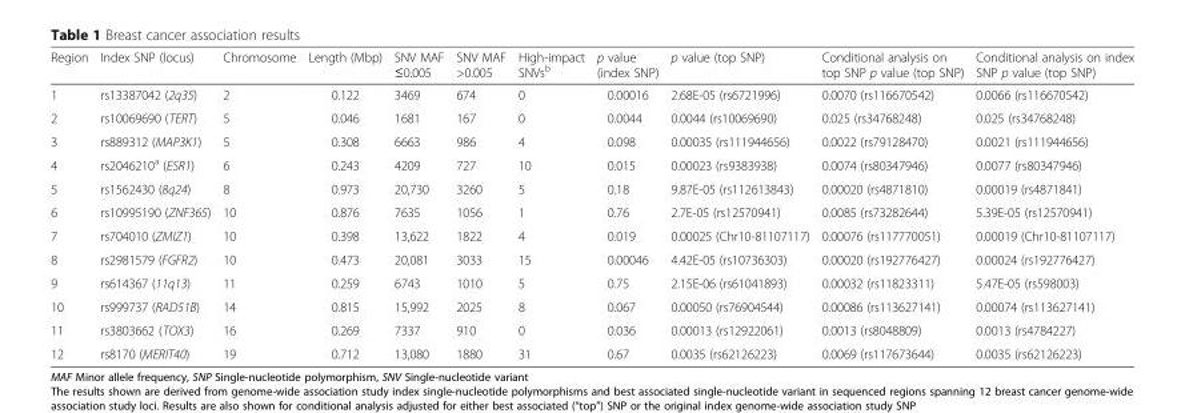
<table><thead><tr><td>Region</td><td>Index SNP (locus)</td><td>Chromosome</td><td>Length (Mbp)</td><td>SNV MAF ≤0.005</td><td>SNV MAF &gt;0.005</td><td>High-impact SNVs<sup>b</sup></td><td>p value (index SNP)</td><td>p value (top SNP)</td><td>Conditional analysis on top SNP p value (top SNP)</td><td>Conditional analysis on index SNP p value (top SNP)</td></tr></thead><tbody><tr><td>1</td><td>rs13387042 (2q35)</td><td>2</td><td>0.122</td><td>3469</td><td>674</td><td>0</td><td>0.00016</td><td>2.68E-05 (rs6721996)</td><td>0.0070 (rs116670542)</td><td>0.0066 (rs116670542)</td></tr><tr><td>2</td><td>rs10069690 (TERT)</td><td>5</td><td>0.046</td><td>1681</td><td>167</td><td>0</td><td>0.0044</td><td>0.0044 (rs10069690)</td><td>0.025 (rs34768248)</td><td>0.025 (rs34768248)</td></tr><tr><td>3</td><td>rs889312 (MAP3K1)</td><td>5</td><td>0.308</td><td>6663</td><td>986</td><td>4</td><td>0.098</td><td>0.00035 (rs111944656)</td><td>0.0022 (rs79128470)</td><td>0.0021 (rs111944656)</td></tr><tr><td>4</td><td>rs2046210<sup>a</sup> (ESR1)</td><td>6</td><td>0.243</td><td>4209</td><td>727</td><td>10</td><td>0.015</td><td>0.00023 (rs9383938)</td><td>0.0074 (rs80347946)</td><td>0.0077 (rs80347946)</td></tr><tr><td>5</td><td>rs1562430 (8q24)</td><td>8</td><td>0.973</td><td>20,730</td><td>3260</td><td>5</td><td>0.18</td><td>9.87E-05 (rs112613843)</td><td>0.00020 (rs4871810)</td><td>0.00019 (rs4871841)</td></tr><tr><td>6</td><td>rs10995190 (ZNF365)</td><td>10</td><td>0.876</td><td>7635</td><td>1056</td><td>1</td><td>0.76</td><td>2.7E-05 (rs12570941)</td><td>0.0085 (rs73282644)</td><td>5.39E-05 (rs12570941)</td></tr><tr><td>7</td><td>rs704010 (ZMIZ1)</td><td>10</td><td>0.398</td><td>13,622</td><td>1822</td><td>4</td><td>0.019</td><td>0.00025 (Chr10-81107117)</td><td>0.00076 (rs117770051)</td><td>0.00019 (Chr10-81107117)</td></tr><tr><td>8</td><td>rs2981579 (FGFR2)</td><td>10</td><td>0.473</td><td>20,081</td><td>3033</td><td>15</td><td>0.00046</td><td>4.42E-05 (rs10736303)</td><td>0.00020 (rs192776427)</td><td>0.00024 (rs192776427)</td></tr><tr><td>9</td><td>rs614367 (11q13)</td><td>11</td><td>0.259</td><td>6743</td><td>1010</td><td>5</td><td>0.75</td><td>2.15E-06 (rs61041893)</td><td>0.00032 (rs11823311)</td><td>5.47E-05 (rs598003)</td></tr><tr><td>10</td><td>rs999737 (RAD51B)</td><td>14</td><td>0.815</td><td>15,992</td><td>2025</td><td>8</td><td>0.067</td><td>0.00050 (rs76904544)</td><td>0.00086 (rs113627141)</td><td>0.00074 (rs113627141)</td></tr><tr><td>11</td><td>rs3803662 (TOX3)</td><td>16</td><td>0.269</td><td>7337</td><td>910</td><td>0</td><td>0.036</td><td>0.00013 (rs12922061)</td><td>0.0013 (rs8048809)</td><td>0.0013 (rs4784227)</td></tr><tr><td>12</td><td>rs8170 (MERIT40)</td><td>19</td><td>0.712</td><td>13,080</td><td>1880</td><td>31</td><td>0.67</td><td>0.0035 (rs62126223)</td><td>0.0069 (rs117673644)</td><td>0.0035 (rs62126223)</td></tr></tbody></table>